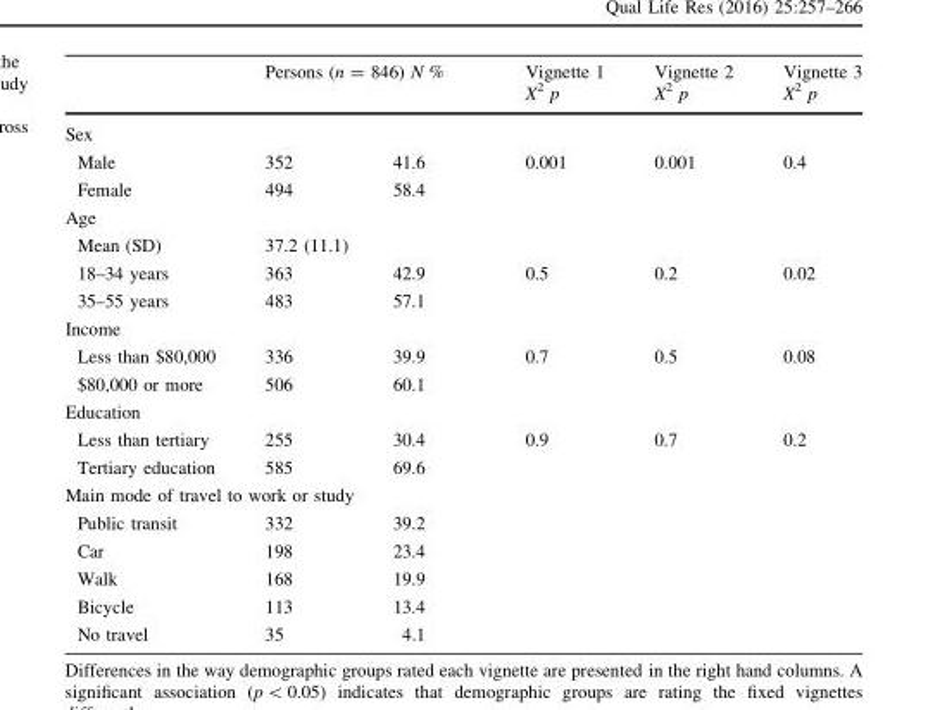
<table><thead><tr><td></td><td colspan="2">Persons (n = 846) N %</td><td>Vignette 1 X<sup>2</sup> p</td><td>Vignette 2 X<sup>2</sup> p</td><td>Vignette 3 X<sup>2</sup> p</td></tr><tr><td colspan="6">Sex</td></tr><tr><td>Male</td><td>352</td><td>41.6</td><td>0.001</td><td>0.001</td><td>0.4</td></tr></thead><tbody><tr><td>Female</td><td>494</td><td>58.4</td><td></td><td></td><td></td></tr><tr><td colspan="6">Age</td></tr><tr><td>Mean (SD)</td><td colspan="2">37.2 (11.1)</td><td></td><td></td><td></td></tr><tr><td>18–34 years</td><td>363</td><td>42.9</td><td>0.5</td><td>0.2</td><td>0.02</td></tr><tr><td>35–55 years</td><td>483</td><td>57.1</td><td></td><td></td><td></td></tr><tr><td colspan="6">Income</td></tr><tr><td>Less than $80,000</td><td>336</td><td>39.9</td><td>0.7</td><td>0.5</td><td>0.08</td></tr><tr><td>$80,000 or more</td><td>506</td><td>60.1</td><td></td><td></td><td></td></tr><tr><td colspan="6">Education</td></tr><tr><td>Less than tertiary</td><td>255</td><td>30.4</td><td>0.9</td><td>0.7</td><td>0.2</td></tr><tr><td>Tertiary education</td><td>585</td><td>69.6</td><td></td><td></td><td></td></tr><tr><td colspan="6">Main mode of travel to work or study</td></tr><tr><td>Public transit</td><td>332</td><td>39.2</td><td></td><td></td><td></td></tr><tr><td>Car</td><td>198</td><td>23.4</td><td></td><td></td><td></td></tr><tr><td>Walk</td><td>168</td><td>19.9</td><td></td><td></td><td></td></tr><tr><td>Bicycle</td><td>113</td><td>13.4</td><td></td><td></td><td></td></tr><tr><td>No travel</td><td>35</td><td>4.1</td><td></td><td></td><td></td></tr></tbody></table>